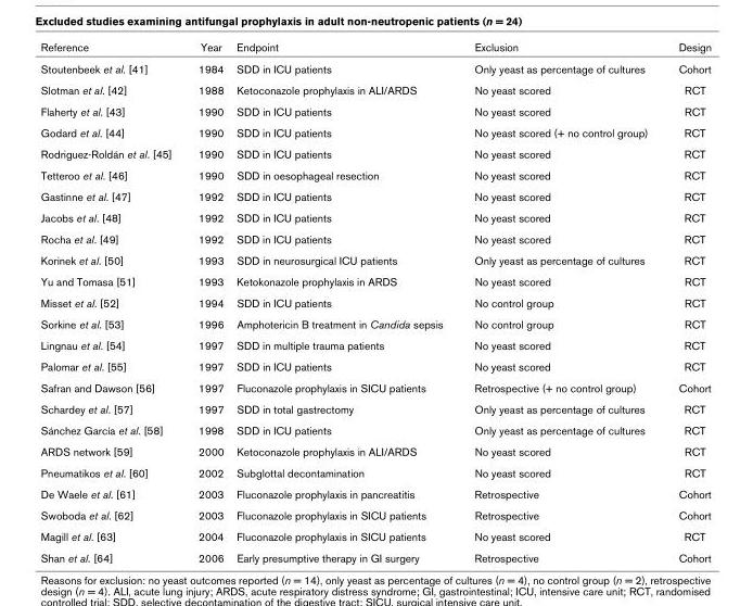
<table><thead><tr><td>Reference</td><td>Year</td><td>Endpoint</td><td>Exclusion</td><td>Design</td></tr></thead><tbody><tr><td>Stoutenbeek et al. [41]</td><td>1984</td><td>SDD in ICU patients</td><td>Only yeast as percentage of cultures</td><td>Cohort</td></tr><tr><td>Slotman et al. [42]</td><td>1988</td><td>Ketoconazole prophylaxis in ALI/ARDS</td><td>No yeast scored</td><td>RCT</td></tr><tr><td>Flaherty et al. [43]</td><td>1990</td><td>SDD in ICU patients</td><td>No yeast scored</td><td>RCT</td></tr><tr><td>Godard et al. [44]</td><td>1990</td><td>SDD in ICU patients</td><td>No yeast scored (+ no control group)</td><td>RCT</td></tr><tr><td>Rodriguez-Roldán et al. [45]</td><td>1990</td><td>SDD in ICU patients</td><td>No yeast scored</td><td>RCT</td></tr><tr><td>Tetteroo et al. [46]</td><td>1990</td><td>SDD in oesophageal resection</td><td>No yeast scored</td><td>RCT</td></tr><tr><td>Gastinne et al. [47]</td><td>1992</td><td>SDD in ICU patients</td><td>No yeast scored</td><td>RCT</td></tr><tr><td>Jacobs et al. [48]</td><td>1992</td><td>SDD in ICU patients</td><td>No yeast scored</td><td>RCT</td></tr><tr><td>Rocha et al. [49]</td><td>1992</td><td>SDD in ICU patients</td><td>No yeast scored</td><td>RCT</td></tr><tr><td>Korinek et al. [50]</td><td>1993</td><td>SDD in neurosurgical ICU patients</td><td>Only yeast as percentage of cultures</td><td>RCT</td></tr><tr><td>Yu and Tomasa [51]</td><td>1993</td><td>Ketokonazole prophylaxis in ARDS</td><td>No yeast scored</td><td>RCT</td></tr><tr><td>Misset et al. [52]</td><td>1994</td><td>SDD in ICU patients</td><td>No control group</td><td>RCT</td></tr><tr><td>Sorkine et al. [53]</td><td>1996</td><td>Amphotericin B treatment in Candida sepsis</td><td>No control group</td><td>RCT</td></tr><tr><td>Lingnau et al. [54]</td><td>1997</td><td>SDD in multiple trauma patients</td><td>No yeast scored</td><td>RCT</td></tr><tr><td>Palomar et al. [55]</td><td>1997</td><td>SDD in ICU patients</td><td>No yeast scored</td><td>RCT</td></tr><tr><td>Safran and Dawson [56]</td><td>1997</td><td>Fluconazole prophylaxis in SICU patients</td><td>Retrospective (+ no control group)</td><td>Cohort</td></tr><tr><td>Schardey et al. [57]</td><td>1997</td><td>SDD in total gastrectomy</td><td>Only yeast as percentage of cultures</td><td>RCT</td></tr><tr><td>Sánchez García et al. [58]</td><td>1998</td><td>SDD in ICU patients</td><td>Only yeast as percentage of cultures</td><td>RCT</td></tr><tr><td>ARDS network [59]</td><td>2000</td><td>Ketoconazole prophylaxis in ALI/ARDS</td><td>No yeast scored</td><td>RCT</td></tr><tr><td>Pneumatikos et al. [60]</td><td>2002</td><td>Subglottal decontamination</td><td>No yeast scored</td><td>RCT</td></tr><tr><td>De Waele et al. [61]</td><td>2003</td><td>Fluconazole prophylaxis in pancreatitis</td><td>Retrospective</td><td>Cohort</td></tr><tr><td>Swoboda et al. [62]</td><td>2003</td><td>Fluconazole prophylaxis in SICU patients</td><td>Retrospective</td><td>Cohort</td></tr><tr><td>Magill et al. [63]</td><td>2004</td><td>Fluconazole prophylaxis in SICU patients</td><td>No yeast scored</td><td>RCT</td></tr><tr><td>Shan et al. [64]</td><td>2006</td><td>Early presumptive therapy in GI surgery</td><td>Retrospective</td><td>Cohort</td></tr></tbody></table>